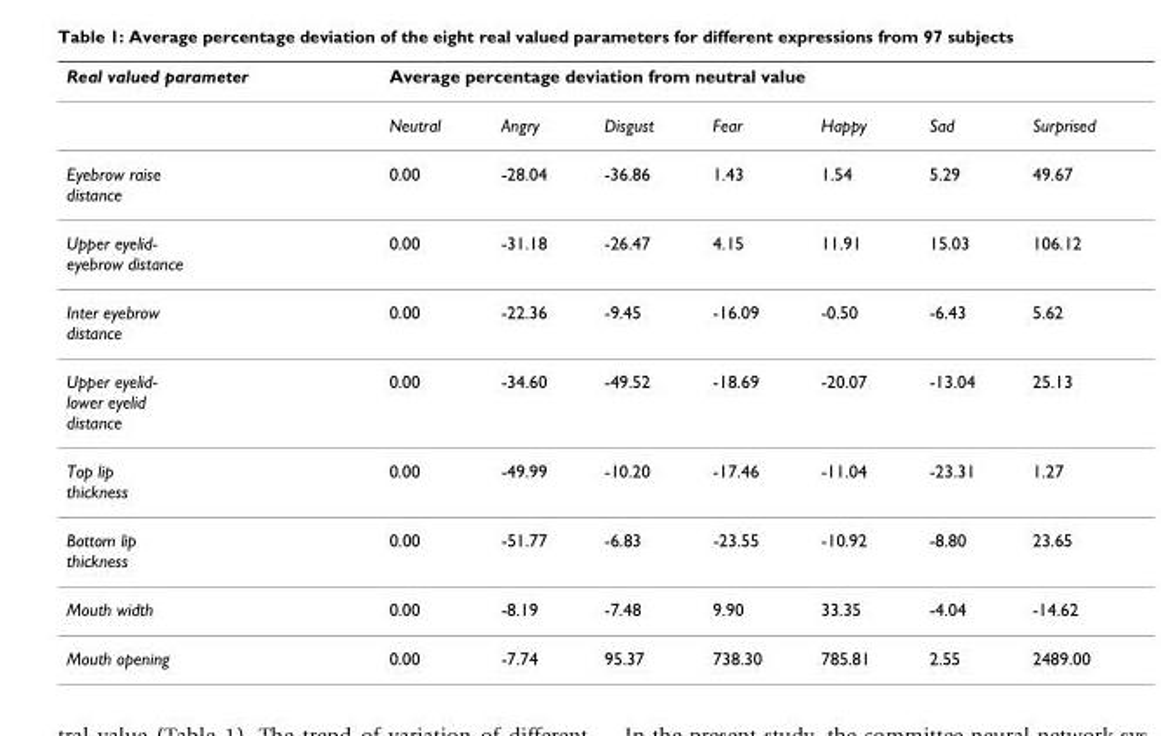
<table><thead><tr><td rowspan="2">Real valued parameter</td><td colspan="7">Average percentage deviation from neutral value</td></tr><tr><td>Neutral</td><td>Angry</td><td>Disgust</td><td>Fear</td><td>Happy</td><td>Sad</td><td>Surprised</td></tr></thead><tbody><tr><td>Eyebrow raise distance</td><td>0.00</td><td>-28.04</td><td>-36.86</td><td>1.43</td><td>1.54</td><td>5.29</td><td>49.67</td></tr><tr><td>Upper eyelid- eyebrow distance</td><td>0.00</td><td>-31.18</td><td>-26.47</td><td>4.15</td><td>11.91</td><td>15.03</td><td>106.12</td></tr><tr><td>Inter eyebrow distance</td><td>0.00</td><td>-22.36</td><td>-9.45</td><td>-16.09</td><td>-0.50</td><td>-6.43</td><td>5.62</td></tr><tr><td>Upper eyelid- lower eyelid distance</td><td>0.00</td><td>-34.60</td><td>-49.52</td><td>-18.69</td><td>-20.07</td><td>-13.04</td><td>25.13</td></tr><tr><td>Top lip thickness</td><td>0.00</td><td>-49.99</td><td>-10.20</td><td>-17.46</td><td>-11.04</td><td>-23.31</td><td>1.27</td></tr><tr><td>Bottom lip thickness</td><td>0.00</td><td>-51.77</td><td>-6.83</td><td>-23.55</td><td>-10.92</td><td>-8.80</td><td>23.65</td></tr><tr><td>Mouth width</td><td>0.00</td><td>-8.19</td><td>-7.48</td><td>9.90</td><td>33.35</td><td>-4.04</td><td>-14.62</td></tr><tr><td>Mouth opening</td><td>0.00</td><td>-7.74</td><td>95.37</td><td>738.30</td><td>785.81</td><td>2.55</td><td>2489.00</td></tr></tbody></table>